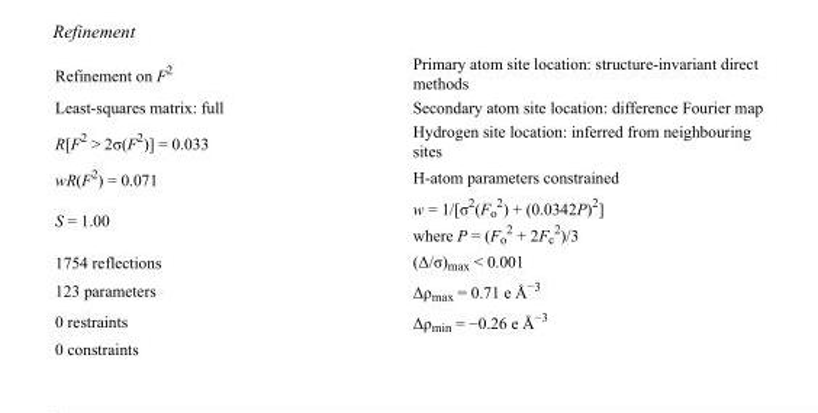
<table><tbody><tr><td>Refinement on F<sup>2</sup></td><td>Primary atom site location: structure-invariant direct methods</td></tr><tr><td>Least-squares matrix: full</td><td>Secondary atom site location: difference Fourier map</td></tr><tr><td>R[F<sup>2</sup> &gt; 2σ(F<sup>2</sup>)] = 0.033</td><td>Hydrogen site location: inferred from neighbouring sites</td></tr><tr><td>wR(F<sup>2</sup>) = 0.071</td><td>H-atom parameters constrained</td></tr><tr><td>S = 1.00</td><td>w = 1/[σ<sup>2</sup>(F<sub>o</sub> <sup>2</sup>) + (0.0342P)<sup>2</sup>] where P = (F<sub>o</sub> <sup>2</sup> + 2F<sub>c</sub> <sup>2</sup>)/3</td></tr><tr><td>1754 reflections</td><td>(Δ/σ)<sub>max</sub> &lt; 0.001</td></tr><tr><td>123 parameters</td><td>Δρ<sub>max</sub> = 0.71 e Å<sup>−3</sup></td></tr><tr><td>0 restraints</td><td>Δρ<sub>min</sub> = −0.26 e Å<sup>−3</sup></td></tr><tr><td>0 constraints</td><td></td></tr></tbody></table>